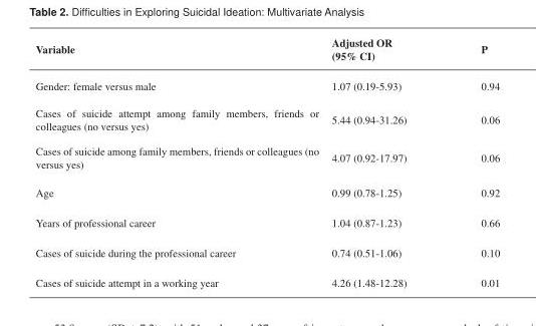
<table><thead><tr><td>Variable</td><td>Adjusted OR (95% CI)</td><td>P</td></tr></thead><tbody><tr><td>Gender: female versus male</td><td>1.07 (0.19-5.93)</td><td>0.94</td></tr><tr><td>Cases of suicide attempt among family members, friends or colleagues (no versus yes)</td><td>5.44 (0.94-31.26)</td><td>0.06</td></tr><tr><td>Cases of suicide among family members, friends or colleagues (no versus yes)</td><td>4.07 (0.92-17.97)</td><td>0.06</td></tr><tr><td>Age</td><td>0.99 (0.78-1.25)</td><td>0.92</td></tr><tr><td>Years of professional career</td><td>1.04 (0.87-1.23)</td><td>0.66</td></tr><tr><td>Cases of suicide during the professional career</td><td>0.74 (0.51-1.06)</td><td>0.10</td></tr><tr><td>Cases of suicide attempt in a working year</td><td>4.26 (1.48-12.28)</td><td>0.01</td></tr></tbody></table>